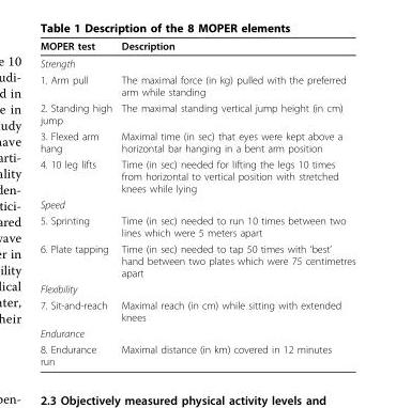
<table><thead><tr><td>MOPER test</td><td>Description</td></tr></thead><tbody><tr><td colspan="2">Strength</td></tr><tr><td>1. Arm pull</td><td>The maximal force (in kg) pulled with the preferred arm while standing</td></tr><tr><td>2. Standing high jump</td><td>The maximal standing vertical jump height (in cm)</td></tr><tr><td>3. Flexed arm hang</td><td>Maximal time (in sec) that eyes were kept above a horizontal bar hanging in a bent arm position</td></tr><tr><td>4. 10 leg lifts</td><td>Time (in sec) needed for lifting the legs 10 times from horizontal to vertical position with stretched knees while lying</td></tr><tr><td colspan="2">Speed</td></tr><tr><td>5. Sprinting</td><td>Time (in sec) needed to run 10 times between two lines which were 5 meters apart</td></tr><tr><td>6. Plate tapping</td><td>Time (in sec) needed to tap 50 times with ‘best’ hand between two plates which were 75 centimetres apart</td></tr><tr><td colspan="2">Flexibility</td></tr><tr><td>7. Sit-and-reach</td><td>Maximal reach (in cm) while sitting with extended knees</td></tr><tr><td colspan="2">Endurance</td></tr><tr><td>8. Endurance run</td><td>Maximal distance (in km) covered in 12 minutes</td></tr></tbody></table>